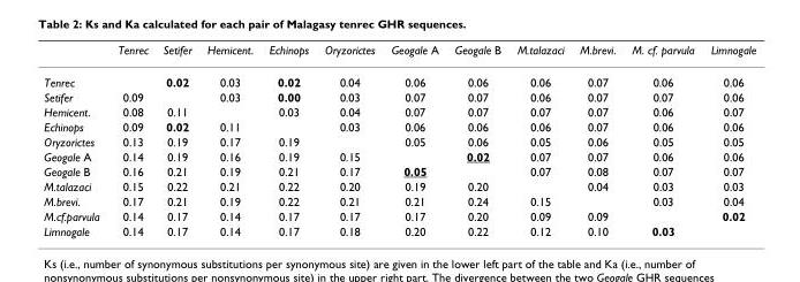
<table><thead><tr><td></td><td>Tenrec</td><td>Setifer</td><td>Hemicent.</td><td>Echinops</td><td>Oryzorictes</td><td>Geogale A</td><td>Geogale B</td><td>M.talazaci</td><td>M.brevi.</td><td>M. cf. parvula</td><td>Limnogale</td></tr></thead><tbody><tr><td>Tenrec</td><td></td><td>0.02</td><td>0.03</td><td>0.02</td><td>0.04</td><td>0.06</td><td>0.06</td><td>0.06</td><td>0.07</td><td>0.06</td><td>0.06</td></tr><tr><td>Setifer</td><td>0.09</td><td></td><td>0.03</td><td>0.00</td><td>0.03</td><td>0.07</td><td>0.07</td><td>0.06</td><td>0.07</td><td>0.07</td><td>0.06</td></tr><tr><td>Hemicent.</td><td>0.08</td><td>0.11</td><td></td><td>0.03</td><td>0.04</td><td>0.07</td><td>0.07</td><td>0.07</td><td>0.07</td><td>0.06</td><td>0.07</td></tr><tr><td>Echinops</td><td>0.09</td><td>0.02</td><td>0.11</td><td></td><td>0.03</td><td>0.06</td><td>0.06</td><td>0.06</td><td>0.07</td><td>0.06</td><td>0.06</td></tr><tr><td>Oryzorictes</td><td>0.13</td><td>0.19</td><td>0.17</td><td>0.19</td><td></td><td>0.05</td><td>0.06</td><td>0.05</td><td>0.06</td><td>0.05</td><td>0.05</td></tr><tr><td>Geogale A</td><td>0.14</td><td>0.19</td><td>0.16</td><td>0.19</td><td>0.15</td><td></td><td>0.02</td><td>0.07</td><td>0.07</td><td>0.06</td><td>0.06</td></tr><tr><td>Geogale B</td><td>0.16</td><td>0.21</td><td>0.19</td><td>0.21</td><td>0.17</td><td>0.05</td><td></td><td>0.07</td><td>0.08</td><td>0.07</td><td>0.07</td></tr><tr><td>M.talazaci</td><td>0.15</td><td>0.22</td><td>0.21</td><td>0.22</td><td>0.20</td><td>0.19</td><td>0.20</td><td></td><td>0.04</td><td>0.03</td><td>0.03</td></tr><tr><td>M.brevi.</td><td>0.17</td><td>0.21</td><td>0.19</td><td>0.22</td><td>0.21</td><td>0.21</td><td>0.24</td><td>0.15</td><td></td><td>0.03</td><td>0.04</td></tr><tr><td>M.cf.parvula</td><td>0.14</td><td>0.17</td><td>0.14</td><td>0.17</td><td>0.17</td><td>0.17</td><td>0.20</td><td>0.09</td><td>0.09</td><td></td><td>0.02</td></tr><tr><td>Limnogale</td><td>0.14</td><td>0.17</td><td>0.14</td><td>0.17</td><td>0.18</td><td>0.20</td><td>0.22</td><td>0.12</td><td>0.10</td><td>0.03</td><td></td></tr></tbody></table>